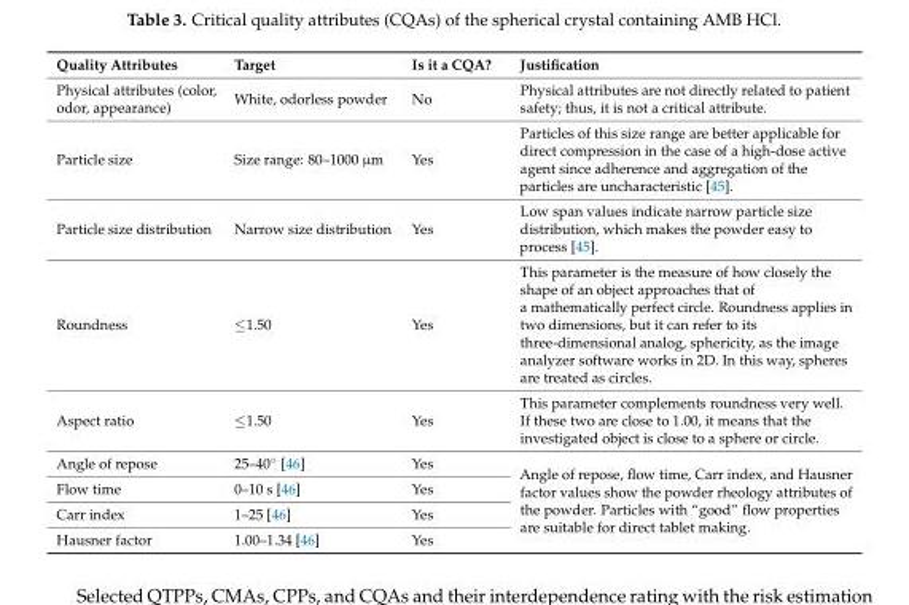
<table><thead><tr><td>Quality Attributes</td><td>Target</td><td>Is it a CQA?</td><td>Justification</td></tr></thead><tbody><tr><td>Physical attributes (color, odor, appearance)</td><td>White, odorless powder</td><td>No</td><td>Physical attributes are not directly related to patient safety; thus, it is not a critical attribute.</td></tr><tr><td>Particle size</td><td>Size range: 80–1000 µm</td><td>Yes</td><td>Particles of this size range are better applicable for direct compression in the case of a high-dose active agent since adherence and aggregation of the particles are uncharacteristic [45].</td></tr><tr><td>Particle size distribution</td><td>Narrow size distribution</td><td>Yes</td><td>Low span values indicate narrow particle size distribution, which makes the powder easy to process [45].</td></tr><tr><td>Roundness</td><td>≤1.50</td><td>Yes</td><td>This parameter is the measure of how closely the shape of an object approaches that of a mathematically perfect circle. Roundness applies in two dimensions, but it can refer to its three-dimensional analog, sphericity, as the image analyzer software works in 2D. In this way, spheres are treated as circles.</td></tr><tr><td>Aspect ratio</td><td>≤1.50</td><td>Yes</td><td>This parameter complements roundness very well. If these two are close to 1.00, it means that the investigated object is close to a sphere or circle.</td></tr><tr><td>Angle of repose</td><td>25–40◦ [46]</td><td>Yes</td><td rowspan="4">Angle of repose, flow time, Carr index, and Hausner factor values show the powder rheology attributes of the powder. Particles with “good” flow properties are suitable for direct tablet making.</td></tr><tr><td>Flow time</td><td>0–10 s [46]</td><td>Yes</td></tr><tr><td>Carr index</td><td>1–25 [46]</td><td>Yes</td></tr><tr><td>Hausner factor</td><td>1.00–1.34 [46]</td><td>Yes</td></tr></tbody></table>